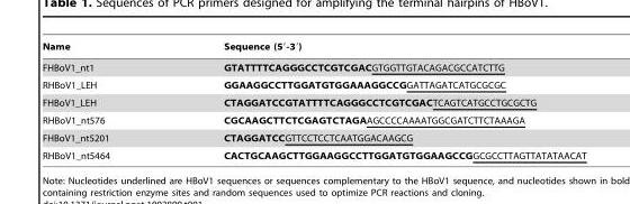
<table><thead><tr><td>Name</td><td>Sequence (5′-3′)</td></tr></thead><tbody><tr><td>FHBoV1_nt1</td><td>GTATTTTCAGGGCCTCGTCGACGTGGTTGTACAGACGCCATCTTG</td></tr><tr><td>RHBoV1_LEH</td><td>GGAAGGCCTTGGATGTGGAAAGGCCGGATTAGATCATGCGCGC</td></tr><tr><td>FHBoV1_LEH</td><td>CTAGGATCCGTATTTTCAGGGCCTCGTCGACTCAGTCATGCCTGCGCTG</td></tr><tr><td>RHBoV1_nt576</td><td>CGCAAGCTTCTCGAGTCTAGAAGCCCCAAAATGGCGATCTTCTAAAGA</td></tr><tr><td>FHBoV1_nt5201</td><td>CTAGGATCCGTTCCTCCTCAATGGACAAGCG</td></tr><tr><td>RHBoV1_nt5464</td><td>CACTGCAAGCTTGGAAGGCCTTGGATGTGGAAGCCGGCGCCTTAGTTATATAACAT</td></tr></tbody></table>